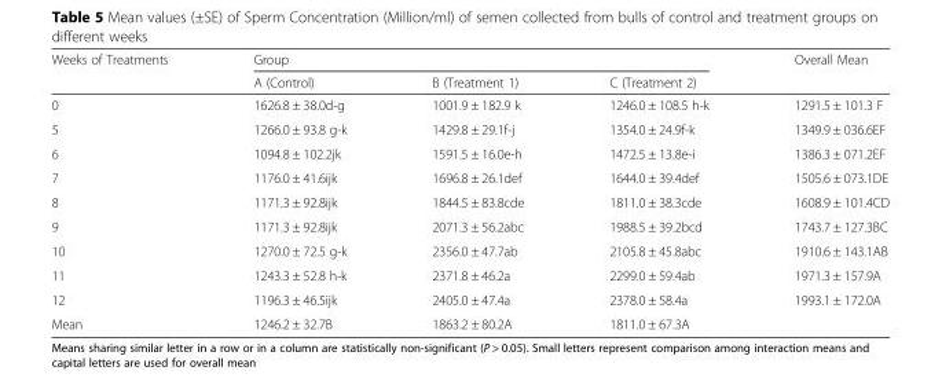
<table><thead><tr><td rowspan="2">Weeks of Treatments</td><td colspan="3">Group</td><td rowspan="2">Overall Mean</td></tr><tr><td>A (Control)</td><td>B (Treatment 1)</td><td>C (Treatment 2)</td></tr></thead><tbody><tr><td>0</td><td>1626.8 ± 38.0d-g</td><td>1001.9 ± 182.9 k</td><td>1246.0 ± 108.5 h-k</td><td>1291.5 ± 101.3 F</td></tr><tr><td>5</td><td>1266.0 ± 93.8 g-k</td><td>1429.8 ± 29.1f-j</td><td>1354.0 ± 24.9f-k</td><td>1349.9 ± 036.6EF</td></tr><tr><td>6</td><td>1094.8 ± 102.2jk</td><td>1591.5 ± 16.0e-h</td><td>1472.5 ± 13.8e-i</td><td>1386.3 ± 071.2EF</td></tr><tr><td>7</td><td>1176.0 ± 41.6ijk</td><td>1696.8 ± 26.1def</td><td>1644.0 ± 39.4def</td><td>1505.6 ± 073.1DE</td></tr><tr><td>8</td><td>1171.3 ± 92.8ijk</td><td>1844.5 ± 83.8cde</td><td>1811.0 ± 38.3cde</td><td>1608.9 ± 101.4CD</td></tr><tr><td>9</td><td>1171.3 ± 92.8ijk</td><td>2071.3 ± 56.2abc</td><td>1988.5 ± 39.2bcd</td><td>1743.7 ± 127.3BC</td></tr><tr><td>10</td><td>1270.0 ± 72.5 g-k</td><td>2356.0 ± 47.7ab</td><td>2105.8 ± 45.8abc</td><td>1910.6 ± 143.1AB</td></tr><tr><td>11</td><td>1243.3 ± 52.8 h-k</td><td>2371.8 ± 46.2a</td><td>2299.0 ± 59.4ab</td><td>1971.3 ± 157.9A</td></tr><tr><td>12</td><td>1196.3 ± 46.5ijk</td><td>2405.0 ± 47.4a</td><td>2378.0 ± 58.4a</td><td>1993.1 ± 172.0A</td></tr><tr><td>Mean</td><td>1246.2 ± 32.7B</td><td>1863.2 ± 80.2A</td><td>1811.0 ± 67.3A</td><td></td></tr></tbody></table>